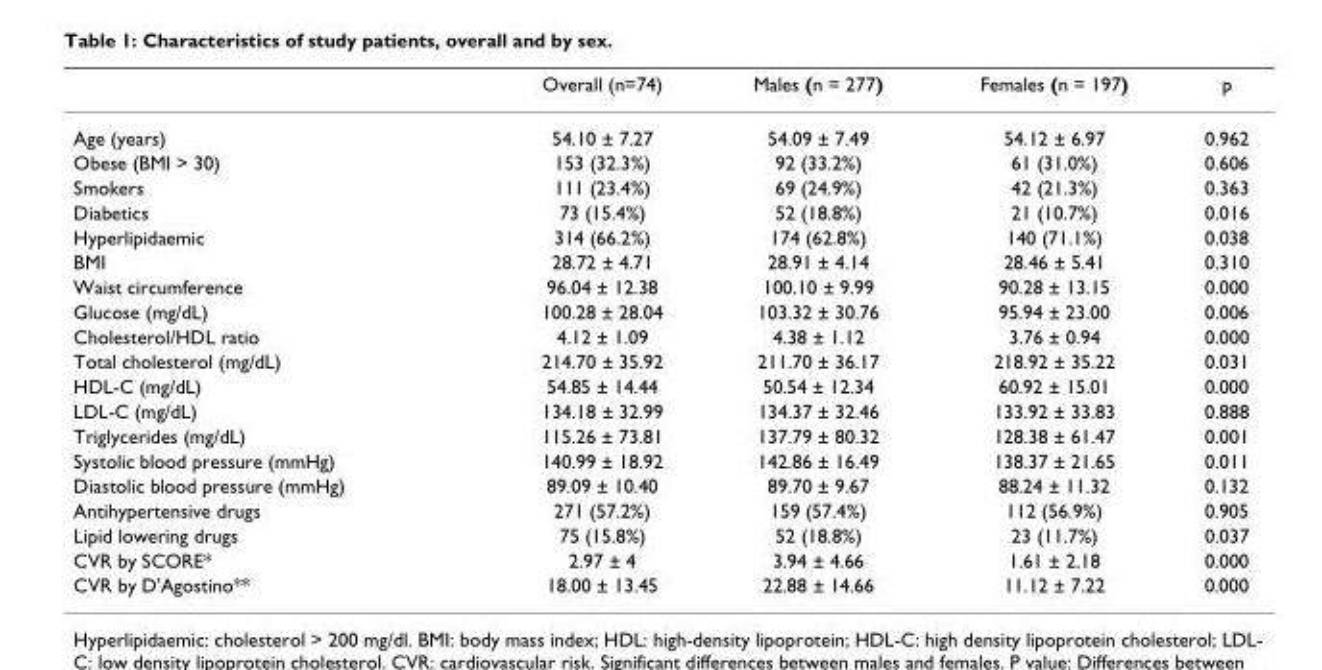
<table><thead><tr><td></td><td>Overall (n=74)</td><td>Males (n = 277)</td><td>Females (n = 197)</td><td>p</td></tr></thead><tbody><tr><td>Age (years)</td><td>54.10 ± 7.27</td><td>54.09 ± 7.49</td><td>54.12 ± 6.97</td><td>0.962</td></tr><tr><td>Obese (BMI &gt; 30)</td><td>153 (32.3%)</td><td>92 (33.2%)</td><td>61 (31.0%)</td><td>0.606</td></tr><tr><td>Smokers</td><td>111 (23.4%)</td><td>69 (24.9%)</td><td>42 (21.3%)</td><td>0.363</td></tr><tr><td>Diabetics</td><td>73 (15.4%)</td><td>52 (18.8%)</td><td>21 (10.7%)</td><td>0.016</td></tr><tr><td>Hyperlipidaemic</td><td>314 (66.2%)</td><td>174 (62.8%)</td><td>140 (71.1%)</td><td>0.038</td></tr><tr><td>BMI</td><td>28.72 ± 4.71</td><td>28.91 ± 4.14</td><td>28.46 ± 5.41</td><td>0.310</td></tr><tr><td>Waist circumference</td><td>96.04 ± 12.38</td><td>100.10 ± 9.99</td><td>90.28 ± 13.15</td><td>0.000</td></tr><tr><td>Glucose (mg/dL)</td><td>100.28 ± 28.04</td><td>103.32 ± 30.76</td><td>95.94 ± 23.00</td><td>0.006</td></tr><tr><td>Cholesterol/HDL ratio</td><td>4.12 ± 1.09</td><td>4.38 ± 1.12</td><td>3.76 ± 0.94</td><td>0.000</td></tr><tr><td>Total cholesterol (mg/dL)</td><td>214.70 ± 35.92</td><td>211.70 ± 36.17</td><td>218.92 ± 35.22</td><td>0.031</td></tr><tr><td>HDL-C (mg/dL)</td><td>54.85 ± 14.44</td><td>50.54 ± 12.34</td><td>60.92 ± 15.01</td><td>0.000</td></tr><tr><td>LDL-C (mg/dL)</td><td>134.18 ± 32.99</td><td>134.37 ± 32.46</td><td>133.92 ± 33.83</td><td>0.888</td></tr><tr><td>Triglycerides (mg/dL)</td><td>115.26 ± 73.81</td><td>137.79 ± 80.32</td><td>128.38 ± 61.47</td><td>0.001</td></tr><tr><td>Systolic blood pressure (mmHg)</td><td>140.99 ± 18.92</td><td>142.86 ± 16.49</td><td>138.37 ± 21.65</td><td>0.011</td></tr><tr><td>Diastolic blood pressure (mmHg)</td><td>89.09 ± 10.40</td><td>89.70 ± 9.67</td><td>88.24 ± 11.32</td><td>0.132</td></tr><tr><td>Antihypertensive drugs</td><td>271 (57.2%)</td><td>159 (57.4%)</td><td>112 (56.9%)</td><td>0.905</td></tr><tr><td>Lipid lowering drugs</td><td>75 (15.8%)</td><td>52 (18.8%)</td><td>23 (11.7%)</td><td>0.037</td></tr><tr><td>CVR by SCORE*</td><td>2.97 ± 4</td><td>3.94 ± 4.66</td><td>1.61 ± 2.18</td><td>0.000</td></tr><tr><td>CVR by D&#x27;Agostino**</td><td>18.00 ± 13.45</td><td>22.88 ± 14.66</td><td>11.12 ± 7.22</td><td>0.000</td></tr></tbody></table>